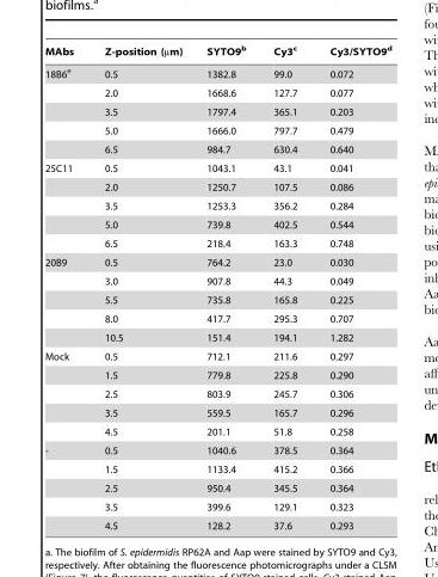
<table><thead><tr><td>MAbs</td><td>Z-position (µm)</td><td>SYTO9<sup>b</sup></td><td>Cy3<sup>c</sup></td><td>Cy3/SYTO9<sup>d</sup></td></tr></thead><tbody><tr><td rowspan="5">18B6<sup>e</sup></td><td>0.5</td><td>1382.8</td><td>99.0</td><td>0.072</td></tr><tr><td>2.0</td><td>1668.6</td><td>127.7</td><td>0.077</td></tr><tr><td>3.5</td><td>1797.4</td><td>365.1</td><td>0.203</td></tr><tr><td>5.0</td><td>1666.0</td><td>797.7</td><td>0.479</td></tr><tr><td>6.5</td><td>984.7</td><td>630.4</td><td>0.640</td></tr><tr><td rowspan="5">25C11</td><td>0.5</td><td>1043.1</td><td>43.1</td><td>0.041</td></tr><tr><td>2.0</td><td>1250.7</td><td>107.5</td><td>0.086</td></tr><tr><td>3.5</td><td>1253.3</td><td>356.2</td><td>0.284</td></tr><tr><td>5.0</td><td>739.8</td><td>402.5</td><td>0.544</td></tr><tr><td>6.5</td><td>218.4</td><td>163.3</td><td>0.748</td></tr><tr><td rowspan="5">20B9</td><td>0.5</td><td>764.2</td><td>23.0</td><td>0.030</td></tr><tr><td>3.0</td><td>907.8</td><td>44.3</td><td>0.049</td></tr><tr><td>5.5</td><td>735.8</td><td>165.8</td><td>0.225</td></tr><tr><td>8.0</td><td>417.7</td><td>295.3</td><td>0.707</td></tr><tr><td>10.5</td><td>151.4</td><td>194.1</td><td>1.282</td></tr><tr><td rowspan="5">Mock</td><td>0.5</td><td>712.1</td><td>211.6</td><td>0.297</td></tr><tr><td>1.5</td><td>779.8</td><td>225.8</td><td>0.290</td></tr><tr><td>2.5</td><td>803.9</td><td>245.7</td><td>0.306</td></tr><tr><td>3.5</td><td>559.5</td><td>165.7</td><td>0.296</td></tr><tr><td>4.5</td><td>201.1</td><td>51.8</td><td>0.258</td></tr><tr><td rowspan="5">-</td><td>0.5</td><td>1040.6</td><td>378.5</td><td>0.364</td></tr><tr><td>1.5</td><td>1133.4</td><td>415.2</td><td>0.366</td></tr><tr><td>2.5</td><td>950.4</td><td>345.5</td><td>0.364</td></tr><tr><td>3.5</td><td>399.6</td><td>129.1</td><td>0.323</td></tr><tr><td>4.5</td><td>128.2</td><td>37.6</td><td>0.293</td></tr></tbody></table>